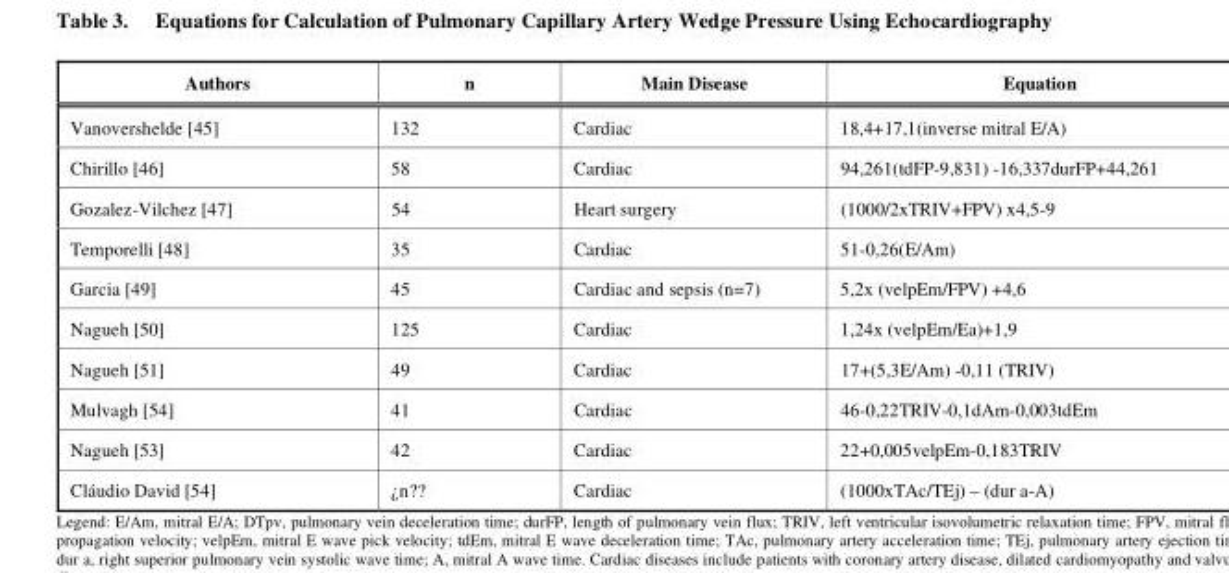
<table><thead><tr><td>Authors</td><td>n</td><td>Main Disease</td><td>Equation</td></tr></thead><tbody><tr><td>Vanovershelde [45]</td><td>132</td><td>Cardiac</td><td>18,4+17,1(inverse mitral E/A)</td></tr><tr><td>Chirillo [46]</td><td>58</td><td>Cardiac</td><td>94,261(tdFP-9,831) -16,337durFP+44,261</td></tr><tr><td>Gozalez-Vilchez [47]</td><td>54</td><td>Heart surgery</td><td>(1000/2xTRIV+FPV) x4,5-9</td></tr><tr><td>Temporelli [48]</td><td>35</td><td>Cardiac</td><td>51-0,26(E/Am)</td></tr><tr><td>Garcia [49]</td><td>45</td><td>Cardiac and sepsis (n=7)</td><td>5,2x (velpEm/FPV) +4,6</td></tr><tr><td>Nagueh [50]</td><td>125</td><td>Cardiac</td><td>1,24x (velpEm/Ea)+1,9</td></tr><tr><td>Nagueh [51]</td><td>49</td><td>Cardiac</td><td>17+(5,3E/Am) -0,11 (TRIV)</td></tr><tr><td>Mulvagh [54]</td><td>41</td><td>Cardiac</td><td>46-0,22TRIV-0,1dAm-0,003tdEm</td></tr><tr><td>Nagueh [53]</td><td>42</td><td>Cardiac</td><td>22+0,005velpEm-0,183TRIV</td></tr><tr><td>Cláudio David [54]</td><td>¿n??</td><td>Cardiac</td><td>(1000xTAc/TEj) – (dur a-A)</td></tr></tbody></table>